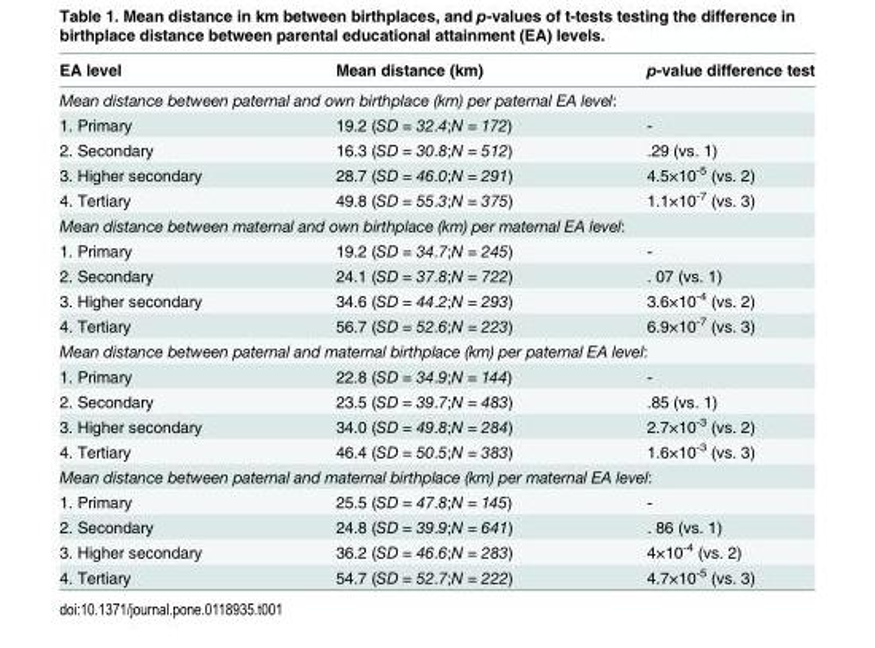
<table><thead><tr><td>EA level</td><td>Mean distance (km)</td><td>p-value difference test</td></tr></thead><tbody><tr><td colspan="3">Mean distance between paternal and own birthplace (km) per paternal EA level:</td></tr><tr><td>1. Primary</td><td>19.2 (SD = 32.4;N = 172)</td><td>-</td></tr><tr><td>2. Secondary</td><td>16.3 (SD = 30.8;N = 512)</td><td>.29 (vs. 1)</td></tr><tr><td>3. Higher secondary</td><td>28.7 (SD = 46.0;N = 291)</td><td>4.5×10<sup>-5</sup> (vs. 2)</td></tr><tr><td>4. Tertiary</td><td>49.8 (SD = 55.3;N = 375)</td><td>1.1×10<sup>-7</sup> (vs. 3)</td></tr><tr><td colspan="3">Mean distance between maternal and own birthplace (km) per maternal EA level:</td></tr><tr><td>1. Primary</td><td>19.2 (SD = 34.7;N = 245)</td><td>-</td></tr><tr><td>2. Secondary</td><td>24.1 (SD = 37.8;N = 722)</td><td>. 07 (vs. 1)</td></tr><tr><td>3. Higher secondary</td><td>34.6 (SD = 44.2;N = 293)</td><td>3.6×10<sup>-4</sup> (vs. 2)</td></tr><tr><td>4. Tertiary</td><td>56.7 (SD = 52.6;N = 223)</td><td>6.9×10<sup>-7</sup> (vs. 3)</td></tr><tr><td colspan="3">Mean distance between paternal and maternal birthplace (km) per paternal EA level:</td></tr><tr><td>1. Primary</td><td>22.8 (SD = 34.9;N = 144)</td><td>-</td></tr><tr><td>2. Secondary</td><td>23.5 (SD = 39.7;N = 483)</td><td>.85 (vs. 1)</td></tr><tr><td>3. Higher secondary</td><td>34.0 (SD = 49.8;N = 284)</td><td>2.7×10<sup>-3</sup> (vs. 2)</td></tr><tr><td>4. Tertiary</td><td>46.4 (SD = 50.5;N = 383)</td><td>1.6×10<sup>-3</sup> (vs. 3)</td></tr><tr><td colspan="3">Mean distance between paternal and maternal birthplace (km) per maternal EA level:</td></tr><tr><td>1. Primary</td><td>25.5 (SD = 47.8;N = 145)</td><td>-</td></tr><tr><td>2. Secondary</td><td>24.8 (SD = 39.9;N = 641)</td><td>. 86 (vs. 1)</td></tr><tr><td>3. Higher secondary</td><td>36.2 (SD = 46.6;N = 283)</td><td>4×10<sup>-4</sup> (vs. 2)</td></tr><tr><td>4. Tertiary</td><td>54.7 (SD = 52.7;N = 222)</td><td>4.7×10<sup>-5</sup> (vs. 3)</td></tr></tbody></table>